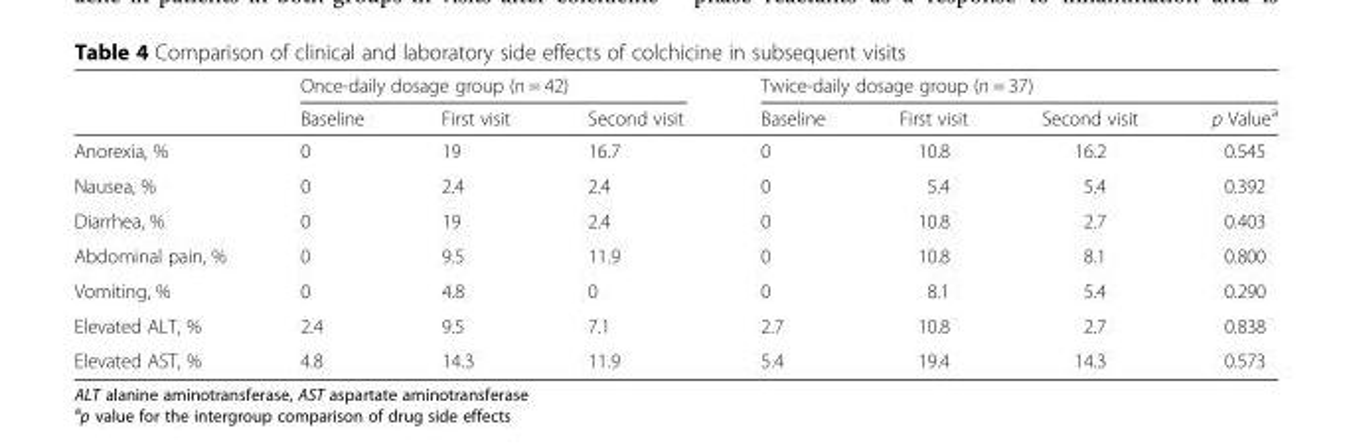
<table><thead><tr><td rowspan="2"></td><td colspan="3">Once-daily dosage group (n = 42)</td><td colspan="4">Twice-daily dosage group (n = 37)</td></tr><tr><td>Baseline</td><td>First visit</td><td>Second visit</td><td>Baseline</td><td>First visit</td><td>Second visit</td><td>p Value<sup>a</sup></td></tr></thead><tbody><tr><td>Anorexia, %</td><td>0</td><td>19</td><td>16.7</td><td>0</td><td>10.8</td><td>16.2</td><td>0.545</td></tr><tr><td>Nausea, %</td><td>0</td><td>2.4</td><td>2.4</td><td>0</td><td>5.4</td><td>5.4</td><td>0.392</td></tr><tr><td>Diarrhea, %</td><td>0</td><td>19</td><td>2.4</td><td>0</td><td>10.8</td><td>2.7</td><td>0.403</td></tr><tr><td>Abdominal pain, %</td><td>0</td><td>9.5</td><td>11.9</td><td>0</td><td>10.8</td><td>8.1</td><td>0.800</td></tr><tr><td>Vomiting, %</td><td>0</td><td>4.8</td><td>0</td><td>0</td><td>8.1</td><td>5.4</td><td>0.290</td></tr><tr><td>Elevated ALT, %</td><td>2.4</td><td>9.5</td><td>7.1</td><td>2.7</td><td>10.8</td><td>2.7</td><td>0.838</td></tr><tr><td>Elevated AST, %</td><td>4.8</td><td>14.3</td><td>11.9</td><td>5.4</td><td>19.4</td><td>14.3</td><td>0.573</td></tr></tbody></table>